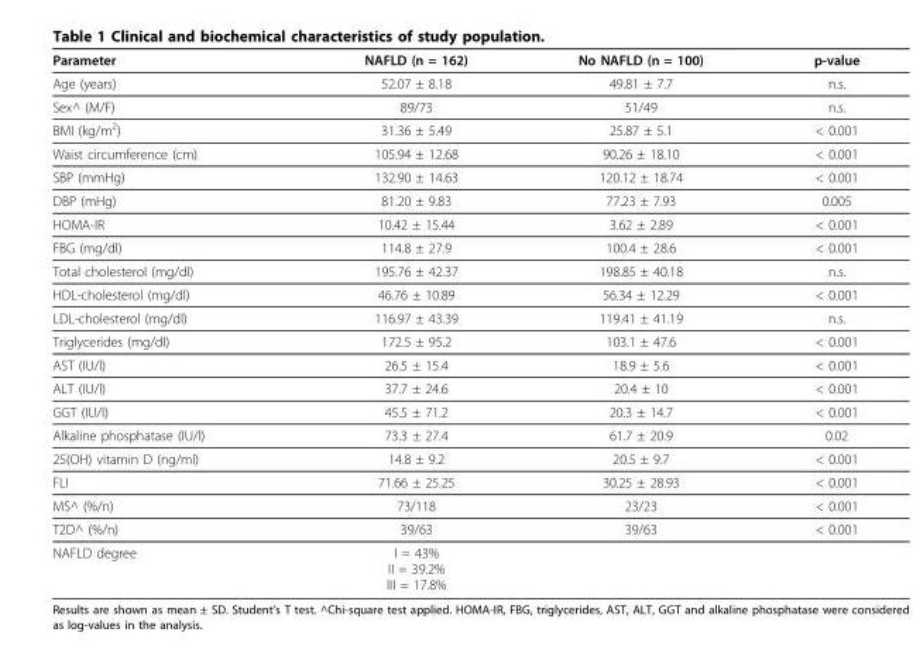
<table><thead><tr><td>Parameter</td><td>NAFLD (n = 162)</td><td>No NAFLD (n = 100)</td><td>p-value</td></tr></thead><tbody><tr><td>Age (years)</td><td>52.07 ± 8.18</td><td>49.81 ± 7.7</td><td>n.s.</td></tr><tr><td>Sex^ (M/F)</td><td>89/73</td><td>51/49</td><td>n.s.</td></tr><tr><td>BMI (kg/m2)</td><td>31.36 ± 5.49</td><td>25.87 ± 5.1</td><td>&lt; 0.001</td></tr><tr><td>Waist circumference (cm)</td><td>105.94 ± 12.68</td><td>90.26 ± 18.10</td><td>&lt; 0.001</td></tr><tr><td>SBP (mmHg)</td><td>132.90 ± 14.63</td><td>120.12 ± 18.74</td><td>&lt; 0.001</td></tr><tr><td>DBP (mHg)</td><td>81.20 ± 9.83</td><td>77.23 ± 7.93</td><td>0.005</td></tr><tr><td>HOMA-IR</td><td>10.42 ± 15.44</td><td>3.62 ± 2.89</td><td>&lt; 0.001</td></tr><tr><td>FBG (mg/dl)</td><td>114.8 ± 27.9</td><td>100.4 ± 28.6</td><td>&lt; 0.001</td></tr><tr><td>Total cholesterol (mg/dl)</td><td>195.76 ± 42.37</td><td>198.85 ± 40.18</td><td>n.s.</td></tr><tr><td>HDL-cholesterol (mg/dl)</td><td>46.76 ± 10.89</td><td>56.34 ± 12.29</td><td>&lt; 0.001</td></tr><tr><td>LDL-cholesterol (mg/dl)</td><td>116.97 ± 43.39</td><td>119.41 ± 41.19</td><td>n.s.</td></tr><tr><td>Triglycerides (mg/dl)</td><td>172.5 ± 95.2</td><td>103.1 ± 47.6</td><td>&lt; 0.001</td></tr><tr><td>AST (IU/l)</td><td>26.5 ± 15.4</td><td>18.9 ± 5.6</td><td>&lt; 0.001</td></tr><tr><td>ALT (IU/l)</td><td>37.7 ± 24.6</td><td>20.4 ± 10</td><td>&lt; 0.001</td></tr><tr><td>GGT (IU/l)</td><td>45.5 ± 71.2</td><td>20.3 ± 14.7</td><td>&lt; 0.001</td></tr><tr><td>Alkaline phosphatase (IU/l)</td><td>73.3 ± 27.4</td><td>61.7 ± 20.9</td><td>0.02</td></tr><tr><td>25(OH) vitamin D (ng/ml)</td><td>14.8 ± 9.2</td><td>20.5 ± 9.7</td><td>&lt; 0.001</td></tr><tr><td>FLI</td><td>71.66 ± 25.25</td><td>30.25 ± 28.93</td><td>&lt; 0.001</td></tr><tr><td>MS^ (%/n)</td><td>73/118</td><td>23/23</td><td>&lt; 0.001</td></tr><tr><td>T2D^ (%/n)</td><td>39/63</td><td>39/63</td><td>&lt; 0.001</td></tr><tr><td>NAFLD degree</td><td>I = 43% II = 39.2% III = 17.8%</td><td></td><td></td></tr></tbody></table>